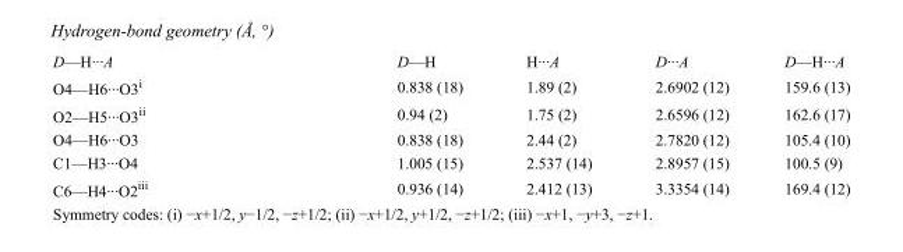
<table><tbody><tr><td>D—H···A</td><td>D—H</td><td>H···A</td><td>D···A</td><td>D—H···A</td></tr><tr><td>O4—H6···O3<sup>i</sup></td><td>0.838 (18)</td><td>1.89 (2)</td><td>2.6902 (12)</td><td>159.6 (13)</td></tr><tr><td>O2—H5···O3<sup>ii</sup></td><td>0.94 (2)</td><td>1.75 (2)</td><td>2.6596 (12)</td><td>162.6 (17)</td></tr><tr><td>O4—H6···O3</td><td>0.838 (18)</td><td>2.44 (2)</td><td>2.7820 (12)</td><td>105.4 (10)</td></tr><tr><td>C1—H3···O4</td><td>1.005 (15)</td><td>2.537 (14)</td><td>2.8957 (15)</td><td>100.5 (9)</td></tr><tr><td>C6—H4···O2<sup>iii</sup></td><td>0.936 (14)</td><td>2.412 (13)</td><td>3.3354 (14)</td><td>169.4 (12)</td></tr></tbody></table>